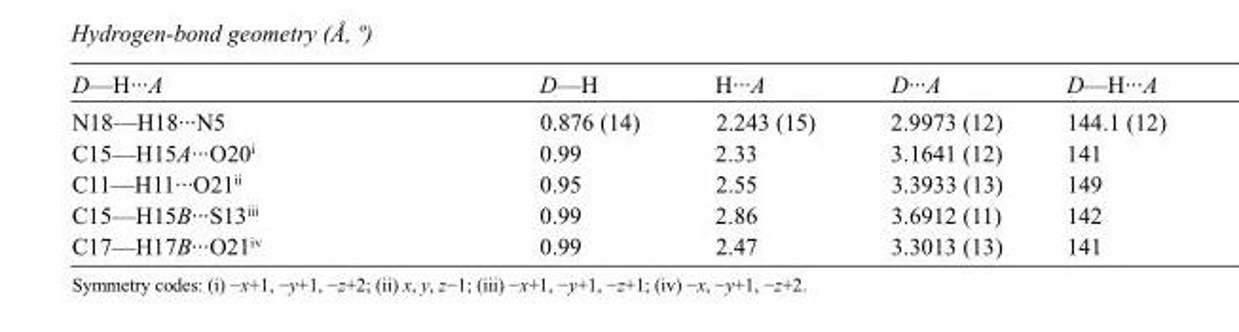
<table><tbody><tr><td>D—H···A</td><td>D—H</td><td>H···A</td><td>D···A</td><td>D—H···A</td></tr><tr><td>N18—H18···N5</td><td>0.876 (14)</td><td>2.243 (15)</td><td>2.9973 (12)</td><td>144.1 (12)</td></tr><tr><td>C15—H15A···O20<sup>i</sup></td><td>0.99</td><td>2.33</td><td>3.1641 (12)</td><td>141</td></tr><tr><td>C11—H11···O21<sup>ii</sup></td><td>0.95</td><td>2.55</td><td>3.3933 (13)</td><td>149</td></tr><tr><td>C15—H15B···S13<sup>iii</sup></td><td>0.99</td><td>2.86</td><td>3.6912 (11)</td><td>142</td></tr><tr><td>C17—H17B···O21<sup>iv</sup></td><td>0.99</td><td>2.47</td><td>3.3013 (13)</td><td>141</td></tr></tbody></table>